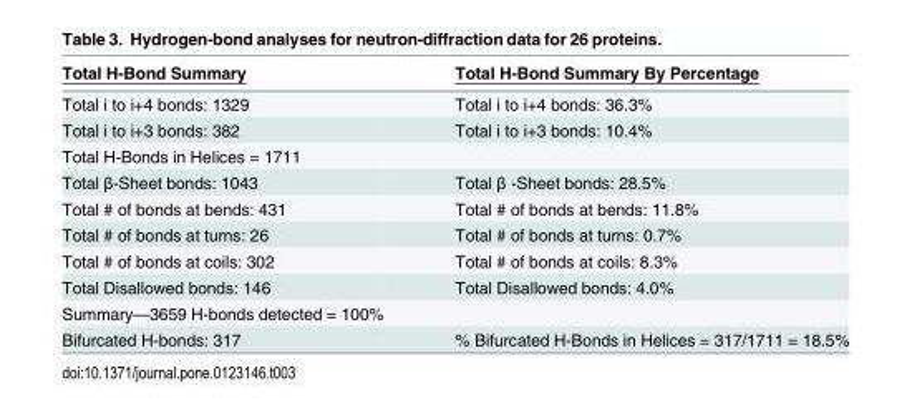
<table><thead><tr><td>Total H-Bond Summary</td><td>Total H-Bond Summary By Percentage</td></tr></thead><tbody><tr><td>Total i to i+4 bonds: 1329</td><td>Total i to i+4 bonds: 36.3%</td></tr><tr><td>Total i to i+3 bonds: 382</td><td>Total i to i+3 bonds: 10.4%</td></tr><tr><td colspan="2">Total H-Bonds in Helices = 1711</td></tr><tr><td>Total β-Sheet bonds: 1043</td><td>Total β -Sheet bonds: 28.5%</td></tr><tr><td>Total # of bonds at bends: 431</td><td>Total # of bonds at bends: 11.8%</td></tr><tr><td>Total # of bonds at turns: 26</td><td>Total # of bonds at turns: 0.7%</td></tr><tr><td>Total # of bonds at coils: 302</td><td>Total # of bonds at coils: 8.3%</td></tr><tr><td>Total Disallowed bonds: 146</td><td>Total Disallowed bonds: 4.0%</td></tr><tr><td colspan="2">Summary—3659 H-bonds detected = 100%</td></tr><tr><td>Bifurcated H-bonds: 317</td><td>% Bifurcated H-Bonds in Helices = 317/1711 = 18.5%</td></tr></tbody></table>